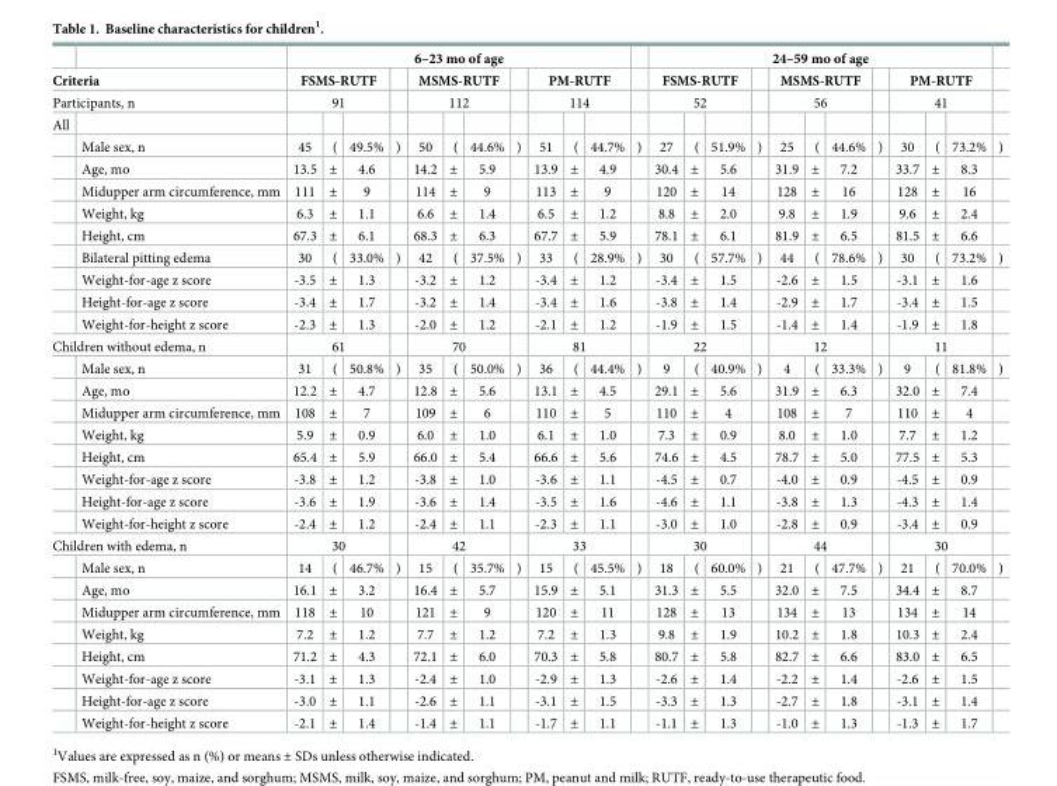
<table><thead><tr><td></td><td></td><td colspan="11">6–23 mo of age</td><td rowspan="4"></td><td colspan="11">24–59 mo of age</td><td rowspan="4"></td></tr><tr><td rowspan="2" colspan="2">Criteria Participants, n</td><td rowspan="2" colspan="3">FSMS-RUTF 91</td><td rowspan="3"></td><td rowspan="2" colspan="3">MSMS-RUTF 112</td><td rowspan="3"></td><td rowspan="2" colspan="3">PM-RUTF 114</td><td rowspan="2" colspan="3">FSMS-RUTF 52</td><td rowspan="3"></td><td rowspan="2" colspan="3">MSMS-RUTF 56</td><td rowspan="3"></td><td rowspan="2" colspan="3">PM-RUTF 41</td></tr><tr></tr><tr><td>All</td><td></td><td></td><td></td><td></td><td></td><td></td><td></td><td></td><td></td><td></td><td></td><td></td><td></td><td></td><td></td><td></td><td></td><td></td><td></td></tr></thead><tbody><tr><td></td><td>Male sex, n</td><td>45</td><td>(</td><td>49.5%</td><td>)</td><td>50</td><td>(</td><td>44.6%</td><td>)</td><td>51</td><td>(</td><td>44.7%</td><td>)</td><td>27</td><td>(</td><td>51.9%</td><td>)</td><td>25</td><td>(</td><td>44.6%</td><td>)</td><td>30</td><td>(</td><td>73.2%</td><td>)</td></tr><tr><td></td><td>Age, mo</td><td>13.5</td><td>±</td><td>4.6</td><td></td><td>14.2</td><td>±</td><td>5.9</td><td></td><td>13.9</td><td>±</td><td>4.9</td><td></td><td>30.4</td><td>±</td><td>5.6</td><td></td><td>31.9</td><td>±</td><td>7.2</td><td></td><td>33.7</td><td>±</td><td>8.3</td><td></td></tr><tr><td></td><td>Midupper arm circumference, mm</td><td>111</td><td>±</td><td>9</td><td></td><td>114</td><td>±</td><td>9</td><td></td><td>113</td><td>±</td><td>9</td><td></td><td>120</td><td>±</td><td>14</td><td></td><td>128</td><td>±</td><td>16</td><td></td><td>128</td><td>±</td><td>16</td><td></td></tr><tr><td></td><td>Weight, kg</td><td>6.3</td><td>±</td><td>1.1</td><td></td><td>6.6</td><td>±</td><td>1.4</td><td></td><td>6.5</td><td>±</td><td>1.2</td><td></td><td>8.8</td><td>±</td><td>2.0</td><td></td><td>9.8</td><td>±</td><td>1.9</td><td></td><td>9.6</td><td>±</td><td>2.4</td><td></td></tr><tr><td></td><td>Height, cm</td><td>67.3</td><td>±</td><td>6.1</td><td></td><td>68.3</td><td>±</td><td>6.3</td><td></td><td>67.7</td><td>±</td><td>5.9</td><td></td><td>78.1</td><td>±</td><td>6.1</td><td></td><td>81.9</td><td>±</td><td>6.5</td><td></td><td>81.5</td><td>±</td><td>6.6</td><td></td></tr><tr><td></td><td>Bilateral pitting edema</td><td>30</td><td>(</td><td>33.0%</td><td>)</td><td>42</td><td>(</td><td>37.5%</td><td>)</td><td>33</td><td>(</td><td>28.9%</td><td>)</td><td>30</td><td>(</td><td>57.7%</td><td>)</td><td>44</td><td>(</td><td>78.6%</td><td>)</td><td>30</td><td>(</td><td>73.2%</td><td>)</td></tr><tr><td></td><td>Weight-for-age z score</td><td>-3.5</td><td>±</td><td>1.3</td><td></td><td>-3.2</td><td>±</td><td>1.2</td><td></td><td>-3.4</td><td>±</td><td>1.2</td><td></td><td>-3.4</td><td>±</td><td>1.5</td><td></td><td>-2.6</td><td>±</td><td>1.5</td><td></td><td>-3.1</td><td>±</td><td>1.6</td><td></td></tr><tr><td></td><td>Height-for-age z score</td><td>-3.4</td><td>±</td><td>1.7</td><td></td><td>-3.2</td><td>±</td><td>1.4</td><td></td><td>-3.4</td><td>±</td><td>1.6</td><td></td><td>-3.8</td><td>±</td><td>1.4</td><td></td><td>-2.9</td><td>±</td><td>1.7</td><td></td><td>-3.4</td><td>±</td><td>1.5</td><td></td></tr><tr><td></td><td>Weight-for-height z score</td><td>-2.3</td><td>±</td><td>1.3</td><td></td><td>-2.0</td><td>±</td><td>1.2</td><td></td><td>-2.1</td><td>±</td><td>1.2</td><td></td><td>-1.9</td><td>±</td><td>1.5</td><td></td><td>-1.4</td><td>±</td><td>1.4</td><td></td><td>-1.9</td><td>±</td><td>1.8</td><td></td></tr><tr><td colspan="2">Children without edema, n</td><td colspan="3">61</td><td></td><td colspan="3">70</td><td></td><td colspan="3">81</td><td></td><td colspan="3">22</td><td></td><td colspan="3">12</td><td></td><td colspan="3">11</td><td></td></tr><tr><td></td><td>Male sex, n</td><td>31</td><td>(</td><td>50.8%</td><td>)</td><td>35</td><td>(</td><td>50.0%</td><td>)</td><td>36</td><td>(</td><td>44.4%</td><td>)</td><td>9</td><td>(</td><td>40.9%</td><td>)</td><td>4</td><td>(</td><td>33.3%</td><td>)</td><td>9</td><td>(</td><td>81.8%</td><td>)</td></tr><tr><td></td><td>Age, mo</td><td>12.2</td><td>±</td><td>4.7</td><td></td><td>12.8</td><td>±</td><td>5.6</td><td></td><td>13.1</td><td>±</td><td>4.5</td><td></td><td>29.1</td><td>±</td><td>5.6</td><td></td><td>31.9</td><td>±</td><td>6.3</td><td></td><td>32.0</td><td>±</td><td>7.4</td><td></td></tr><tr><td></td><td>Midupper arm circumference, mm</td><td>108</td><td>±</td><td>7</td><td></td><td>109</td><td>±</td><td>6</td><td></td><td>110</td><td>±</td><td>5</td><td></td><td>110</td><td>±</td><td>4</td><td></td><td>108</td><td>±</td><td>7</td><td></td><td>110</td><td>±</td><td>4</td><td></td></tr><tr><td></td><td>Weight, kg</td><td>5.9</td><td>±</td><td>0.9</td><td></td><td>6.0</td><td>±</td><td>1.0</td><td></td><td>6.1</td><td>±</td><td>1.0</td><td></td><td>7.3</td><td>±</td><td>0.9</td><td></td><td>8.0</td><td>±</td><td>1.0</td><td></td><td>7.7</td><td>±</td><td>1.2</td><td></td></tr><tr><td></td><td>Height, cm</td><td>65.4</td><td>±</td><td>5.9</td><td></td><td>66.0</td><td>±</td><td>5.4</td><td></td><td>66.6</td><td>±</td><td>5.6</td><td></td><td>74.6</td><td>±</td><td>4.5</td><td></td><td>78.7</td><td>±</td><td>5.0</td><td></td><td>77.5</td><td>±</td><td>5.3</td><td></td></tr><tr><td></td><td>Weight-for-age z score</td><td>-3.8</td><td>±</td><td>1.2</td><td></td><td>-3.8</td><td>±</td><td>1.0</td><td></td><td>-3.6</td><td>±</td><td>1.1</td><td></td><td>-4.5</td><td>±</td><td>0.7</td><td></td><td>-4.0</td><td>±</td><td>0.9</td><td></td><td>-4.5</td><td>±</td><td>0.9</td><td></td></tr><tr><td></td><td>Height-for-age z score</td><td>-3.6</td><td>±</td><td>1.9</td><td></td><td>-3.6</td><td>±</td><td>1.4</td><td></td><td>-3.5</td><td>±</td><td>1.6</td><td></td><td>-4.6</td><td>±</td><td>1.1</td><td></td><td>-3.8</td><td>±</td><td>1.3</td><td></td><td>-4.3</td><td>±</td><td>1.4</td><td></td></tr><tr><td></td><td>Weight-for-height z score</td><td>-2.4</td><td>±</td><td>1.2</td><td></td><td>-2.4</td><td>±</td><td>1.1</td><td></td><td>-2.3</td><td>±</td><td>1.1</td><td></td><td>-3.0</td><td>±</td><td>1.0</td><td></td><td>-2.8</td><td>±</td><td>0.9</td><td></td><td>-3.4</td><td>±</td><td>0.9</td><td></td></tr><tr><td colspan="2">Children with edema, n</td><td colspan="3">30</td><td></td><td colspan="3">42</td><td></td><td colspan="3">33</td><td></td><td colspan="3">30</td><td></td><td colspan="3">44</td><td></td><td colspan="3">30</td><td></td></tr><tr><td></td><td>Male sex, n</td><td>14</td><td>(</td><td>46.7%</td><td>)</td><td>15</td><td>(</td><td>35.7%</td><td>)</td><td>15</td><td>(</td><td>45.5%</td><td>)</td><td>18</td><td>(</td><td>60.0%</td><td>)</td><td>21</td><td>(</td><td>47.7%</td><td>)</td><td>21</td><td>(</td><td>70.0%</td><td>)</td></tr><tr><td></td><td>Age, mo</td><td>16.1</td><td>±</td><td>3.2</td><td></td><td>16.4</td><td>±</td><td>5.7</td><td></td><td>15.9</td><td>±</td><td>5.1</td><td></td><td>31.3</td><td>±</td><td>5.5</td><td></td><td>32.0</td><td>±</td><td>7.5</td><td></td><td>34.4</td><td>±</td><td>8.7</td><td></td></tr><tr><td></td><td>Midupper arm circumference, mm</td><td>118</td><td>±</td><td>10</td><td></td><td>121</td><td>±</td><td>9</td><td></td><td>120</td><td>±</td><td>11</td><td></td><td>128</td><td>±</td><td>13</td><td></td><td>134</td><td>±</td><td>13</td><td></td><td>134</td><td>±</td><td>14</td><td></td></tr><tr><td></td><td>Weight, kg</td><td>7.2</td><td>±</td><td>1.2</td><td></td><td>7.7</td><td>±</td><td>1.2</td><td></td><td>7.2</td><td>±</td><td>1.3</td><td></td><td>9.8</td><td>±</td><td>1.9</td><td></td><td>10.2</td><td>±</td><td>1.8</td><td></td><td>10.3</td><td>±</td><td>2.4</td><td></td></tr><tr><td></td><td>Height, cm</td><td>71.2</td><td>±</td><td>4.3</td><td></td><td>72.1</td><td>±</td><td>6.0</td><td></td><td>70.3</td><td>±</td><td>5.8</td><td></td><td>80.7</td><td>±</td><td>5.8</td><td></td><td>82.7</td><td>±</td><td>6.6</td><td></td><td>83.0</td><td>±</td><td>6.5</td><td></td></tr><tr><td></td><td>Weight-for-age z score</td><td>-3.1</td><td>±</td><td>1.3</td><td></td><td>-2.4</td><td>±</td><td>1.0</td><td></td><td>-2.9</td><td>±</td><td>1.3</td><td></td><td>-2.6</td><td>±</td><td>1.4</td><td></td><td>-2.2</td><td>±</td><td>1.4</td><td></td><td>-2.6</td><td>±</td><td>1.5</td><td></td></tr><tr><td></td><td>Height-for-age z score</td><td>-3.0</td><td>±</td><td>1.1</td><td></td><td>-2.6</td><td>±</td><td>1.1</td><td></td><td>-3.1</td><td>±</td><td>1.5</td><td></td><td>-3.3</td><td>±</td><td>1.3</td><td></td><td>-2.7</td><td>±</td><td>1.8</td><td></td><td>-3.1</td><td>±</td><td>1.4</td><td></td></tr><tr><td></td><td>Weight-for-height z score</td><td>-2.1</td><td>±</td><td>1.4</td><td></td><td>-1.4</td><td>±</td><td>1.1</td><td></td><td>-1.7</td><td>±</td><td>1.1</td><td></td><td>-1.1</td><td>±</td><td>1.3</td><td></td><td>-1.0</td><td>±</td><td>1.3</td><td></td><td>-1.3</td><td>±</td><td>1.7</td><td></td></tr></tbody></table>